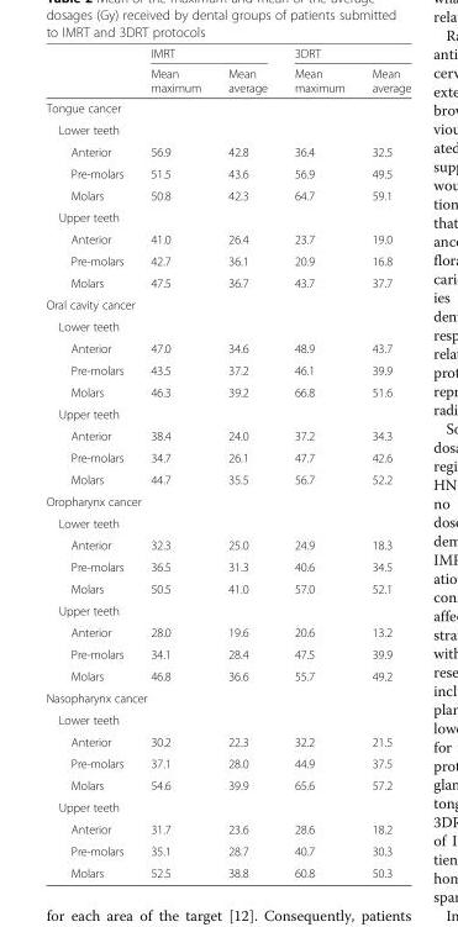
<table><thead><tr><td rowspan="2"></td><td colspan="2">IMRT</td><td colspan="2">3DRT</td></tr><tr><td>Mean maximum</td><td>Mean average</td><td>Mean maximum</td><td>Mean average</td></tr></thead><tbody><tr><td colspan="5">Tongue cancer</td></tr><tr><td colspan="5">Lower teeth</td></tr><tr><td>Anterior</td><td>56.9</td><td>42.8</td><td>36.4</td><td>32.5</td></tr><tr><td>Pre-molars</td><td>51.5</td><td>43.6</td><td>56.9</td><td>49.5</td></tr><tr><td>Molars</td><td>50.8</td><td>42.3</td><td>64.7</td><td>59.1</td></tr><tr><td colspan="5">Upper teeth</td></tr><tr><td>Anterior</td><td>41.0</td><td>26.4</td><td>23.7</td><td>19.0</td></tr><tr><td>Pre-molars</td><td>42.7</td><td>36.1</td><td>20.9</td><td>16.8</td></tr><tr><td>Molars</td><td>47.5</td><td>36.7</td><td>43.7</td><td>37.7</td></tr><tr><td colspan="5">Oral cavity cancer</td></tr><tr><td colspan="5">Lower teeth</td></tr><tr><td>Anterior</td><td>47.0</td><td>34.6</td><td>48.9</td><td>43.7</td></tr><tr><td>Pre-molars</td><td>43.5</td><td>37.2</td><td>46.1</td><td>39.9</td></tr><tr><td>Molars</td><td>46.3</td><td>39.2</td><td>66.8</td><td>51.6</td></tr><tr><td colspan="5">Upper teeth</td></tr><tr><td>Anterior</td><td>38.4</td><td>24.0</td><td>37.2</td><td>34.3</td></tr><tr><td>Pre-molars</td><td>34.7</td><td>26.1</td><td>47.7</td><td>42.6</td></tr><tr><td>Molars</td><td>44.7</td><td>35.5</td><td>56.7</td><td>52.2</td></tr><tr><td colspan="5">Oropharynx cancer</td></tr><tr><td colspan="5">Lower teeth</td></tr><tr><td>Anterior</td><td>32.3</td><td>25.0</td><td>24.9</td><td>18.3</td></tr><tr><td>Pre-molars</td><td>36.5</td><td>31.3</td><td>40.6</td><td>34.5</td></tr><tr><td>Molars</td><td>50.5</td><td>41.0</td><td>57.0</td><td>52.1</td></tr><tr><td colspan="5">Upper teeth</td></tr><tr><td>Anterior</td><td>28.0</td><td>19.6</td><td>20.6</td><td>13.2</td></tr><tr><td>Pre-molars</td><td>34.1</td><td>28.4</td><td>47.5</td><td>39.9</td></tr><tr><td>Molars</td><td>46.8</td><td>36.6</td><td>55.7</td><td>49.2</td></tr><tr><td colspan="5">Nasopharynx cancer</td></tr><tr><td colspan="5">Lower teeth</td></tr><tr><td>Anterior</td><td>30.2</td><td>22.3</td><td>32.2</td><td>21.5</td></tr><tr><td>Pre-molars</td><td>37.1</td><td>28.0</td><td>44.9</td><td>37.5</td></tr><tr><td>Molars</td><td>54.6</td><td>39.9</td><td>65.6</td><td>57.2</td></tr><tr><td colspan="5">Upper teeth</td></tr><tr><td>Anterior</td><td>31.7</td><td>23.6</td><td>28.6</td><td>18.2</td></tr><tr><td>Pre-molars</td><td>35.1</td><td>28.7</td><td>40.7</td><td>30.3</td></tr><tr><td>Molars</td><td>52.5</td><td>38.8</td><td>60.8</td><td>50.3</td></tr></tbody></table>